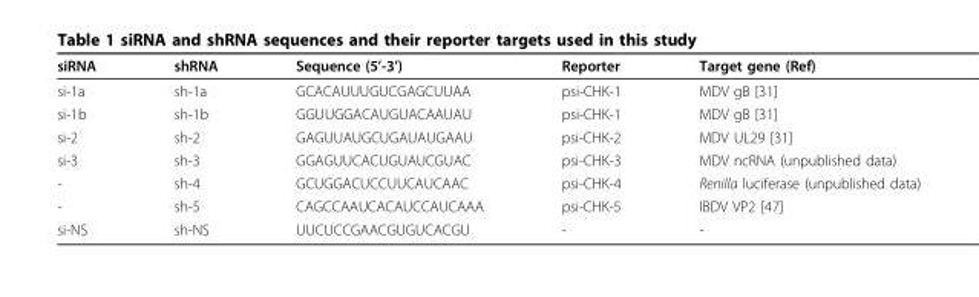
<table><thead><tr><td>siRNA</td><td>shRNA</td><td>Sequence (5’-3’)</td><td>Reporter</td><td>Target gene (Ref)</td></tr></thead><tbody><tr><td>si-1a</td><td>sh-1a</td><td>GCACAUUUGUCGAGCUUAA</td><td>psi-CHK-1</td><td>MDV gB [31]</td></tr><tr><td>si-1b</td><td>sh-1b</td><td>GGUUGGACAUGUACAAUAU</td><td>psi-CHK-1</td><td>MDV gB [31]</td></tr><tr><td>si-2</td><td>sh-2</td><td>GAGUUAUGCUGAUAUGAAU</td><td>psi-CHK-2</td><td>MDV UL29 [31]</td></tr><tr><td>si-3</td><td>sh-3</td><td>GGAGUUCACUGUAUCGUAC</td><td>psi-CHK-3</td><td>MDV ncRNA (unpublished data)</td></tr><tr><td>-</td><td>sh-4</td><td>GCUGGACUCCUUCAUCAAC</td><td>psi-CHK-4</td><td>Renilla luciferase (unpublished data)</td></tr><tr><td>-</td><td>sh-5</td><td>CAGCCAAUCACAUCCAUCAAA</td><td>psi-CHK-5</td><td>IBDV VP2 [47]</td></tr><tr><td>si-NS</td><td>sh-NS</td><td>UUCUCCGAACGUGUCACGU</td><td>-</td><td>-</td></tr></tbody></table>